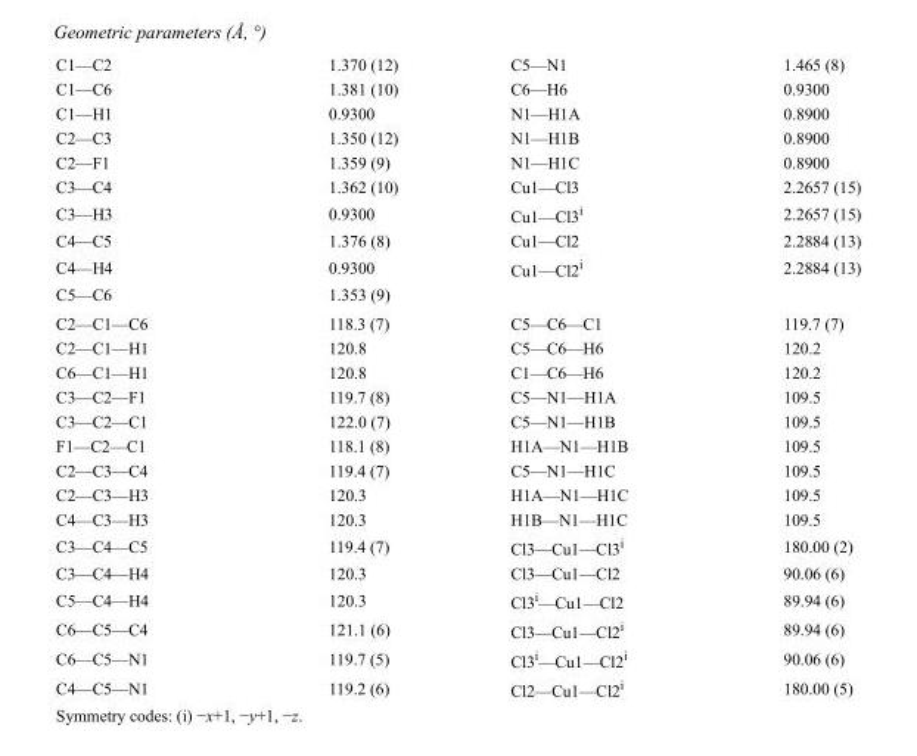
<table><tbody><tr><td>C1—C2</td><td>1.370 (12)</td><td>C5—N1</td><td>1.465 (8)</td></tr><tr><td>C1—C6</td><td>1.381 (10)</td><td>C6—H6</td><td>0.9300</td></tr><tr><td>C1—H1</td><td>0.9300</td><td>N1—H1A</td><td>0.8900</td></tr><tr><td>C2—C3</td><td>1.350 (12)</td><td>N1—H1B</td><td>0.8900</td></tr><tr><td>C2—F1</td><td>1.359 (9)</td><td>N1—H1C</td><td>0.8900</td></tr><tr><td>C3—C4</td><td>1.362 (10)</td><td>Cu1—Cl3</td><td>2.2657 (15)</td></tr><tr><td>C3—H3</td><td>0.9300</td><td>Cu1—Cl3<sup>i</sup></td><td>2.2657 (15)</td></tr><tr><td>C4—C5</td><td>1.376 (8)</td><td>Cu1—Cl2</td><td>2.2884 (13)</td></tr><tr><td>C4—H4</td><td>0.9300</td><td>Cu1—Cl2<sup>i</sup></td><td>2.2884 (13)</td></tr><tr><td>C5—C6</td><td>1.353 (9)</td><td></td><td></td></tr><tr><td>C2—C1—C6</td><td>118.3 (7)</td><td>C5—C6—C1</td><td>119.7 (7)</td></tr><tr><td>C2—C1—H1</td><td>120.8</td><td>C5—C6—H6</td><td>120.2</td></tr><tr><td>C6—C1—H1</td><td>120.8</td><td>C1—C6—H6</td><td>120.2</td></tr><tr><td>C3—C2—F1</td><td>119.7 (8)</td><td>C5—N1—H1A</td><td>109.5</td></tr><tr><td>C3—C2—C1</td><td>122.0 (7)</td><td>C5—N1—H1B</td><td>109.5</td></tr><tr><td>F1—C2—C1</td><td>118.1 (8)</td><td>H1A—N1—H1B</td><td>109.5</td></tr><tr><td>C2—C3—C4</td><td>119.4 (7)</td><td>C5—N1—H1C</td><td>109.5</td></tr><tr><td>C2—C3—H3</td><td>120.3</td><td>H1A—N1—H1C</td><td>109.5</td></tr><tr><td>C4—C3—H3</td><td>120.3</td><td>H1B—N1—H1C</td><td>109.5</td></tr><tr><td>C3—C4—C5</td><td>119.4 (7)</td><td>Cl3—Cu1—Cl3<sup>i</sup></td><td>180.00 (2)</td></tr><tr><td>C3—C4—H4</td><td>120.3</td><td>Cl3—Cu1—Cl2</td><td>90.06 (6)</td></tr><tr><td>C5—C4—H4</td><td>120.3</td><td>Cl3<sup>i</sup>—Cu1—Cl2</td><td>89.94 (6)</td></tr><tr><td>C6—C5—C4</td><td>121.1 (6)</td><td>Cl3—Cu1—Cl2<sup>i</sup></td><td>89.94 (6)</td></tr><tr><td>C6—C5—N1</td><td>119.7 (5)</td><td>Cl3<sup>i</sup>—Cu1—Cl2<sup>i</sup></td><td>90.06 (6)</td></tr><tr><td>C4—C5—N1</td><td>119.2 (6)</td><td>Cl2—Cu1—Cl2<sup>i</sup></td><td>180.00 (5)</td></tr></tbody></table>